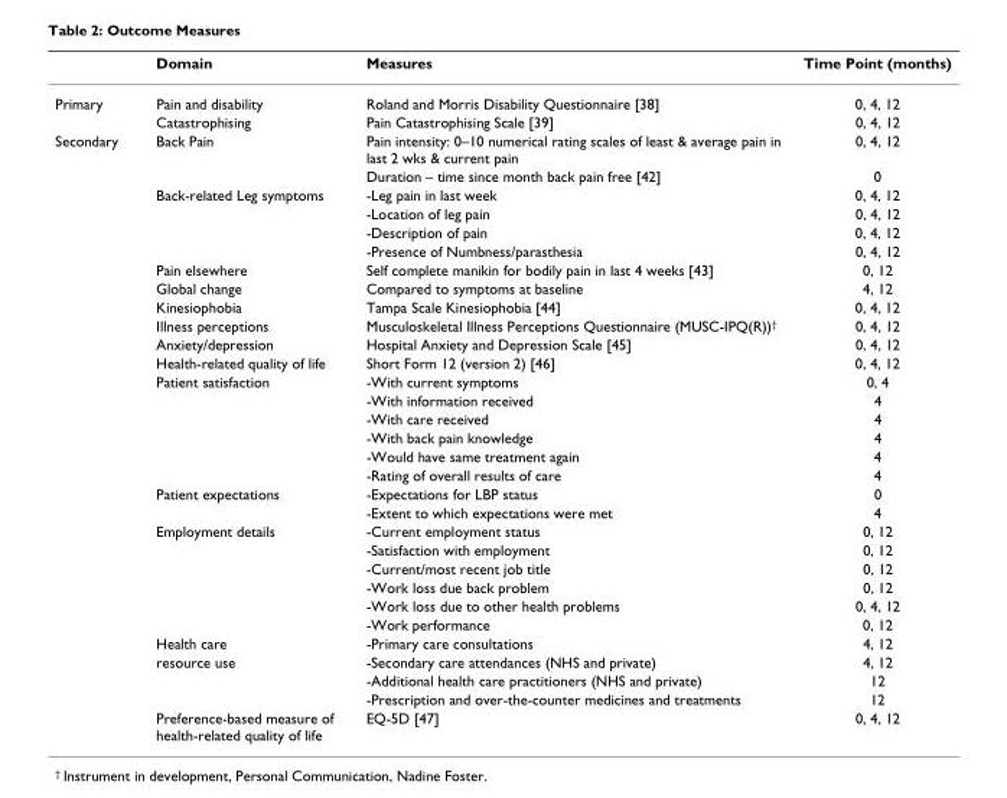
<table><thead><tr><td></td><td>Domain</td><td>Measures</td><td>Time Point (months)</td></tr></thead><tbody><tr><td rowspan="2">Primary</td><td>Pain and disability</td><td>Roland and Morris Disability Questionnaire [38]</td><td>0, 4, 12</td></tr><tr><td>Catastrophising</td><td>Pain Catastrophising Scale [39]</td><td>0, 4, 12</td></tr><tr><td rowspan="31">Secondary</td><td>Back Pain</td><td>Pain intensity: 0–10 numerical rating scales of least &amp; average pain in last 2 wks &amp; current pain</td><td>0, 4, 12</td></tr><tr><td></td><td>Duration – time since month back pain free [42]</td><td>0</td></tr><tr><td>Back-related Leg symptoms</td><td>-Leg pain in last week</td><td>0, 4, 12</td></tr><tr><td></td><td>-Location of leg pain</td><td>0, 4, 12</td></tr><tr><td></td><td>-Description of pain</td><td>0, 4, 12</td></tr><tr><td></td><td>-Presence of Numbness/parasthesia</td><td>0, 4, 12</td></tr><tr><td>Pain elsewhere</td><td>Self complete manikin for bodily pain in last 4 weeks [43]</td><td>0, 12</td></tr><tr><td>Global change</td><td>Compared to symptoms at baseline</td><td>4, 12</td></tr><tr><td>Kinesiophobia</td><td>Tampa Scale Kinesiophobia [44]</td><td>0, 4, 12</td></tr><tr><td>Illness perceptions</td><td>Musculoskeletal Illness Perceptions Questionnaire (MUSC-IPQ(R))<sup>†</sup></td><td>0, 4, 12</td></tr><tr><td>Anxiety/depression</td><td>Hospital Anxiety and Depression Scale [45]</td><td>0, 4, 12</td></tr><tr><td>Health-related quality of life</td><td>Short Form 12 (version 2) [46]</td><td>0, 4, 12</td></tr><tr><td>Patient satisfaction</td><td>-With current symptoms</td><td>0, 4</td></tr><tr><td></td><td>-With information received</td><td>4</td></tr><tr><td></td><td>-With care received</td><td>4</td></tr><tr><td></td><td>-With back pain knowledge</td><td>4</td></tr><tr><td></td><td>-Would have same treatment again</td><td>4</td></tr><tr><td></td><td>-Rating of overall results of care</td><td>4</td></tr><tr><td>Patient expectations</td><td>-Expectations for LBP status</td><td>0</td></tr><tr><td></td><td>-Extent to which expectations were met</td><td>4</td></tr><tr><td>Employment details</td><td>-Current employment status</td><td>0, 12</td></tr><tr><td></td><td>-Satisfaction with employment</td><td>0, 12</td></tr><tr><td></td><td>-Current/most recent job title</td><td>0, 12</td></tr><tr><td></td><td>-Work loss due back problem</td><td>0, 12</td></tr><tr><td></td><td>-Work loss due to other health problems</td><td>0, 4, 12</td></tr><tr><td></td><td>-Work performance</td><td>0, 12</td></tr><tr><td>Health care</td><td>-Primary care consultations</td><td>4, 12</td></tr><tr><td>resource use</td><td>-Secondary care attendances (NHS and private)</td><td>4, 12</td></tr><tr><td></td><td>-Additional health care practitioners (NHS and private)</td><td>12</td></tr><tr><td></td><td>-Prescription and over-the-counter medicines and treatments</td><td>12</td></tr><tr><td>Preference-based measure of health-related quality of life</td><td>EQ-5D [47]</td><td>0, 4, 12</td></tr></tbody></table>